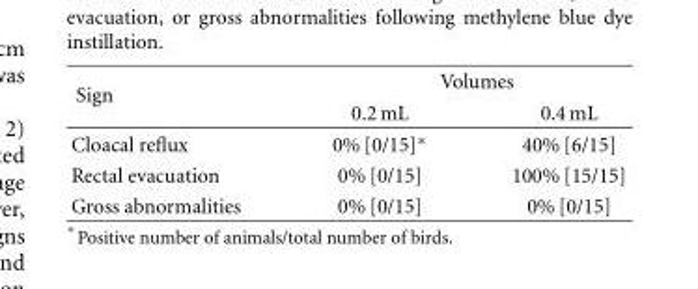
<table><thead><tr><td rowspan="2">Sign</td><td colspan="2">Volumes</td></tr><tr><td>0.2 mL</td><td>0.4 mL</td></tr></thead><tbody><tr><td>Cloacal reflux</td><td>0% [0/15]∗</td><td>40% [6/15]</td></tr><tr><td>Rectal evacuation</td><td>0% [0/15]</td><td>100% [15/15]</td></tr><tr><td>Gross abnormalities</td><td>0% [0/15]</td><td>0% [0/15]</td></tr></tbody></table>